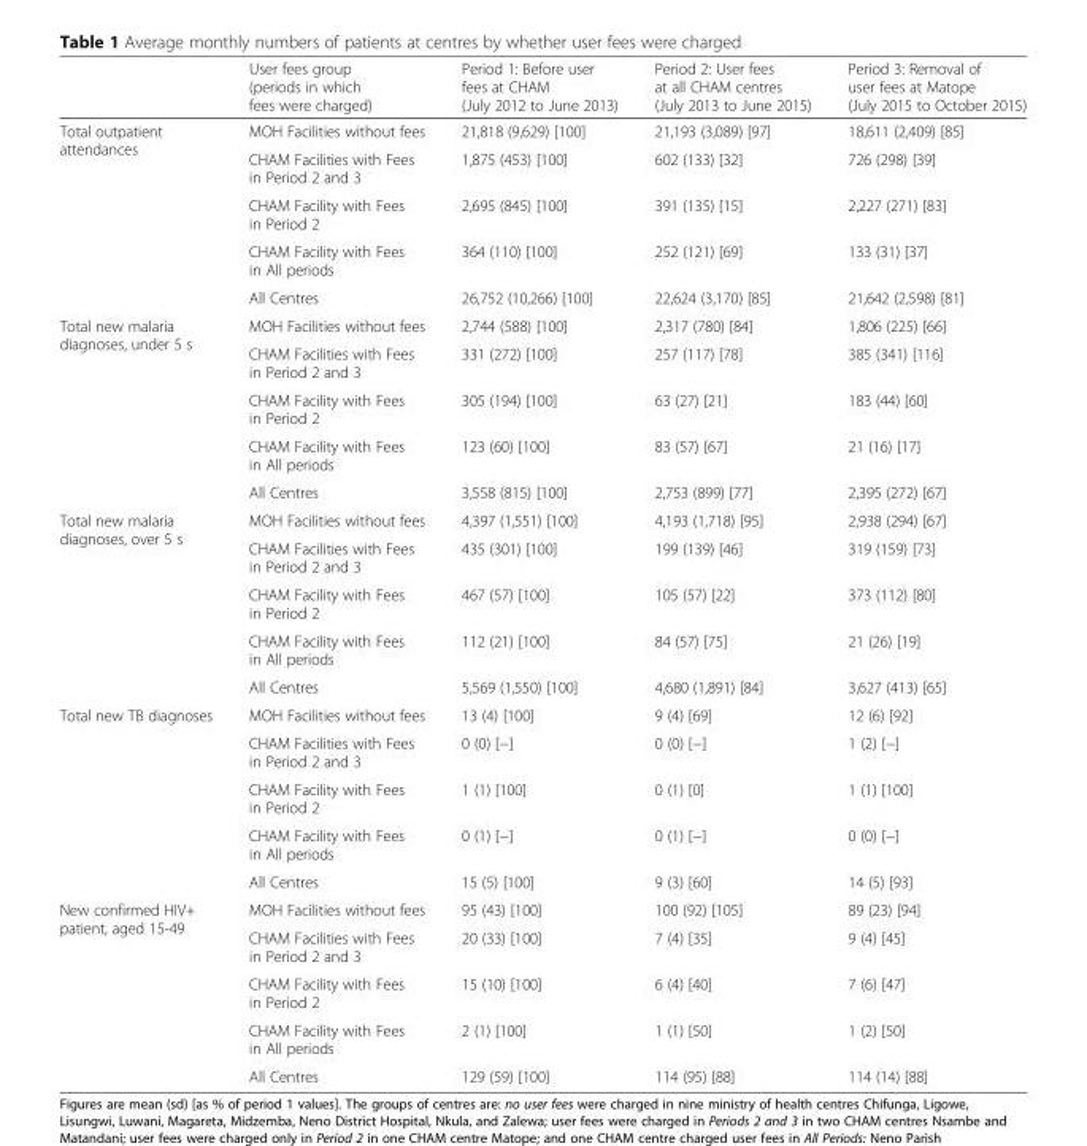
<table><thead><tr><td></td><td>User fees group (periods in which fees were charged)</td><td>Period 1: Before user fees at CHAM (July 2012 to June 2013)</td><td>Period 2: User fees at all CHAM centres (July 2013 to June 2015)</td><td>Period 3: Removal of user fees at Matope (July 2015 to October 2015)</td></tr></thead><tbody><tr><td rowspan="5">Total outpatient attendances</td><td>MOH Facilities without fees</td><td>21,818 (9,629) [100]</td><td>21,193 (3,089) [97]</td><td>18,611 (2,409) [85]</td></tr><tr><td>CHAM Facilities with Fees in Period 2 and 3</td><td>1,875 (453) [100]</td><td>602 (133) [32]</td><td>726 (298) [39]</td></tr><tr><td>CHAM Facility with Fees in Period 2</td><td>2,695 (845) [100]</td><td>391 (135) [15]</td><td>2,227 (271) [83]</td></tr><tr><td>CHAM Facility with Fees in All periods</td><td>364 (110) [100]</td><td>252 (121) [69]</td><td>133 (31) [37]</td></tr><tr><td>All Centres</td><td>26,752 (10,266) [100]</td><td>22,624 (3,170) [85]</td><td>21,642 (2,598) [81]</td></tr><tr><td rowspan="5">Total new malaria diagnoses, under 5 s</td><td>MOH Facilities without fees</td><td>2,744 (588) [100]</td><td>2,317 (780) [84]</td><td>1,806 (225) [66]</td></tr><tr><td>CHAM Facilities with Fees in Period 2 and 3</td><td>331 (272) [100]</td><td>257 (117) [78]</td><td>385 (341) [116]</td></tr><tr><td>CHAM Facility with Fees in Period 2</td><td>305 (194) [100]</td><td>63 (27) [21]</td><td>183 (44) [60]</td></tr><tr><td>CHAM Facility with Fees in All periods</td><td>123 (60) [100]</td><td>83 (57) [67]</td><td>21 (16) [17]</td></tr><tr><td>All Centres</td><td>3,558 (815) [100]</td><td>2,753 (899) [77]</td><td>2,395 (272) [67]</td></tr><tr><td rowspan="5">Total new malaria diagnoses, over 5 s</td><td>MOH Facilities without fees</td><td>4,397 (1,551) [100]</td><td>4,193 (1,718) [95]</td><td>2,938 (294) [67]</td></tr><tr><td>CHAM Facilities with Fees in Period 2 and 3</td><td>435 (301) [100]</td><td>199 (139) [46]</td><td>319 (159) [73]</td></tr><tr><td>CHAM Facility with Fees in Period 2</td><td>467 (57) [100]</td><td>105 (57) [22]</td><td>373 (112) [80]</td></tr><tr><td>CHAM Facility with Fees in All periods</td><td>112 (21) [100]</td><td>84 (57) [75]</td><td>21 (26) [19]</td></tr><tr><td>All Centres</td><td>5,569 (1,550) [100]</td><td>4,680 (1,891) [84]</td><td>3,627 (413) [65]</td></tr><tr><td rowspan="5">Total new TB diagnoses</td><td>MOH Facilities without fees</td><td>13 (4) [100]</td><td>9 (4) [69]</td><td>12 (6) [92]</td></tr><tr><td>CHAM Facilities with Fees in Period 2 and 3</td><td>0 (0) [−]</td><td>0 (0) [−]</td><td>1 (2) [−]</td></tr><tr><td>CHAM Facility with Fees in Period 2</td><td>1 (1) [100]</td><td>0 (1) [0]</td><td>1 (1) [100]</td></tr><tr><td>CHAM Facility with Fees in All periods</td><td>0 (1) [−]</td><td>0 (1) [−]</td><td>0 (0) [−]</td></tr><tr><td>All Centres</td><td>15 (5) [100]</td><td>9 (3) [60]</td><td>14 (5) [93]</td></tr><tr><td rowspan="5">New confirmed HIV+ patient, aged 15-49</td><td>MOH Facilities without fees</td><td>95 (43) [100]</td><td>100 (92) [105]</td><td>89 (23) [94]</td></tr><tr><td>CHAM Facilities with Fees in Period 2 and 3</td><td>20 (33) [100]</td><td>7 (4) [35]</td><td>9 (4) [45]</td></tr><tr><td>CHAM Facility with Fees in Period 2</td><td>15 (10) [100]</td><td>6 (4) [40]</td><td>7 (6) [47]</td></tr><tr><td>CHAM Facility with Fees in All periods</td><td>2 (1) [100]</td><td>1 (1) [50]</td><td>1 (2) [50]</td></tr><tr><td>All Centres</td><td>129 (59) [100]</td><td>114 (95) [88]</td><td>114 (14) [88]</td></tr></tbody></table>